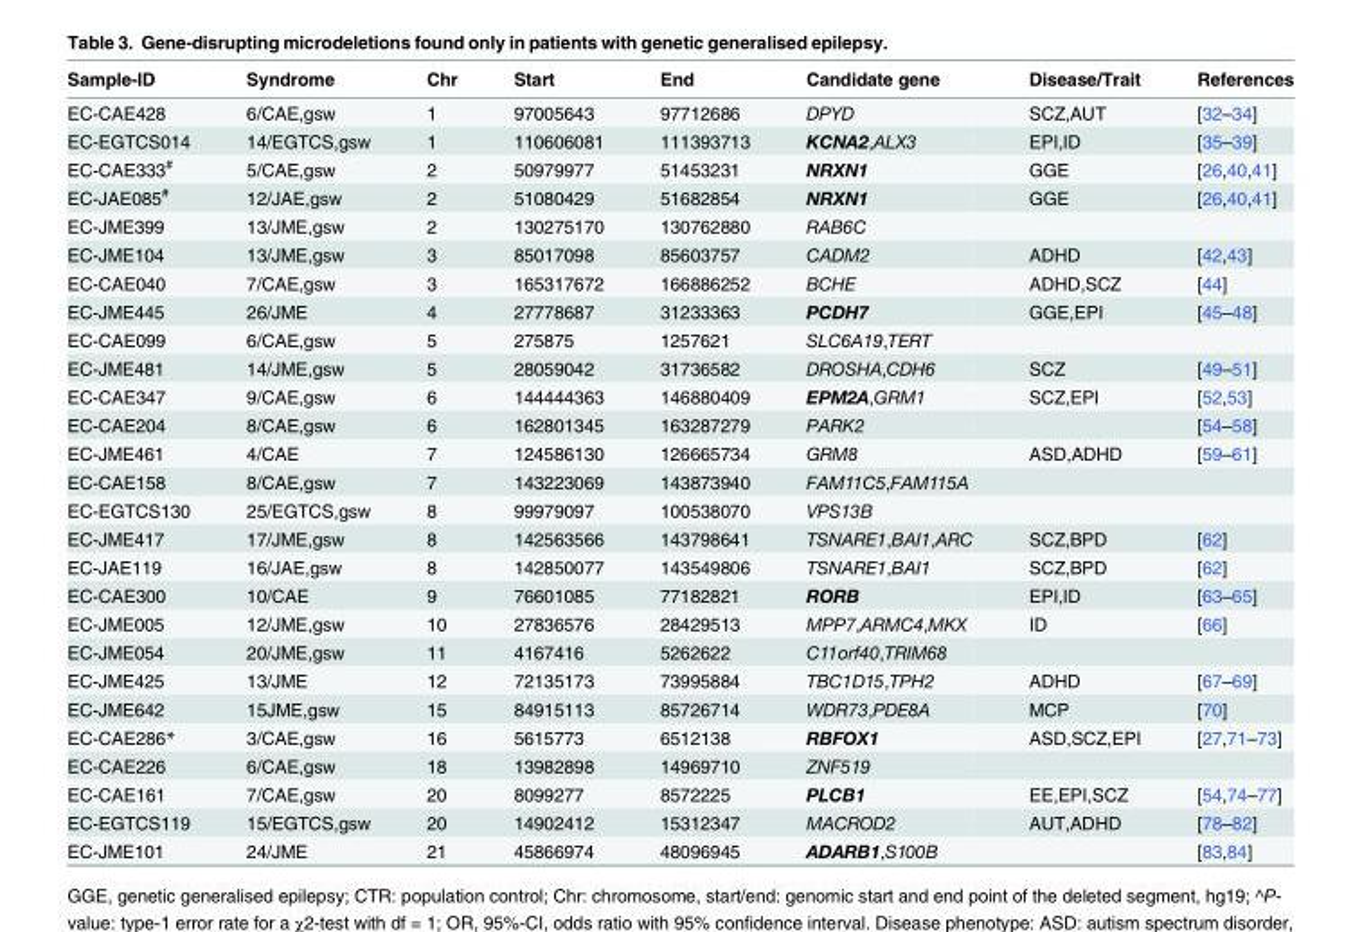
<table><thead><tr><td>Sample-ID</td><td>Syndrome</td><td>Chr</td><td>Start</td><td>End</td><td>Candidate gene</td><td>Disease/Trait</td><td>References</td></tr></thead><tbody><tr><td>EC-CAE428</td><td>6/CAE,gsw</td><td>1</td><td>97005643</td><td>97712686</td><td>DPYD</td><td>SCZ,AUT</td><td>[32–34]</td></tr><tr><td>EC-EGTCS014</td><td>14/EGTCS,gsw</td><td>1</td><td>110606081</td><td>111393713</td><td>KCNA2,ALX3</td><td>EPI,ID</td><td>[35–39]</td></tr><tr><td>EC-CAE333<sup>#</sup></td><td>5/CAE,gsw</td><td>2</td><td>50979977</td><td>51453231</td><td>NRXN1</td><td>GGE</td><td>[26,40,41]</td></tr><tr><td>EC-JAE085<sup>#</sup></td><td>12/JAE,gsw</td><td>2</td><td>51080429</td><td>51682854</td><td>NRXN1</td><td>GGE</td><td>[26,40,41]</td></tr><tr><td>EC-JME399</td><td>13/JME,gsw</td><td>2</td><td>130275170</td><td>130762880</td><td>RAB6C</td><td></td><td></td></tr><tr><td>EC-JME104</td><td>13/JME,gsw</td><td>3</td><td>85017098</td><td>85603757</td><td>CADM2</td><td>ADHD</td><td>[42,43]</td></tr><tr><td>EC-CAE040</td><td>7/CAE,gsw</td><td>3</td><td>165317672</td><td>166886252</td><td>BCHE</td><td>ADHD,SCZ</td><td>[44]</td></tr><tr><td>EC-JME445</td><td>26/JME</td><td>4</td><td>27778687</td><td>31233363</td><td>PCDH7</td><td>GGE,EPI</td><td>[45–48]</td></tr><tr><td>EC-CAE099</td><td>6/CAE,gsw</td><td>5</td><td>275875</td><td>1257621</td><td>SLC6A19,TERT</td><td></td><td></td></tr><tr><td>EC-JME481</td><td>14/JME,gsw</td><td>5</td><td>28059042</td><td>31736582</td><td>DROSHA,CDH6</td><td>SCZ</td><td>[49–51]</td></tr><tr><td>EC-CAE347</td><td>9/CAE,gsw</td><td>6</td><td>144444363</td><td>146880409</td><td>EPM2A,GRM1</td><td>SCZ,EPI</td><td>[52,53]</td></tr><tr><td>EC-CAE204</td><td>8/CAE,gsw</td><td>6</td><td>162801345</td><td>163287279</td><td>PARK2</td><td></td><td>[54–58]</td></tr><tr><td>EC-JME461</td><td>4/CAE</td><td>7</td><td>124586130</td><td>126665734</td><td>GRM8</td><td>ASD,ADHD</td><td>[59–61]</td></tr><tr><td>EC-CAE158</td><td>8/CAE,gsw</td><td>7</td><td>143223069</td><td>143873940</td><td>FAM11C5,FAM115A</td><td></td><td></td></tr><tr><td>EC-EGTCS130</td><td>25/EGTCS,gsw</td><td>8</td><td>99979097</td><td>100538070</td><td>VPS13B</td><td></td><td></td></tr><tr><td>EC-JME417</td><td>17/JME,gsw</td><td>8</td><td>142563566</td><td>143798641</td><td>TSNARE1,BAI1,ARC</td><td>SCZ,BPD</td><td>[62]</td></tr><tr><td>EC-JAE119</td><td>16/JAE,gsw</td><td>8</td><td>142850077</td><td>143549806</td><td>TSNARE1,BAI1</td><td>SCZ,BPD</td><td>[62]</td></tr><tr><td>EC-CAE300</td><td>10/CAE</td><td>9</td><td>76601085</td><td>77182821</td><td>RORB</td><td>EPI,ID</td><td>[63–65]</td></tr><tr><td>EC-JME005</td><td>12/JME,gsw</td><td>10</td><td>27836576</td><td>28429513</td><td>MPP7,ARMC4,MKX</td><td>ID</td><td>[66]</td></tr><tr><td>EC-JME054</td><td>20/JME,gsw</td><td>11</td><td>4167416</td><td>5262622</td><td>C11orf40,TRIM68</td><td></td><td></td></tr><tr><td>EC-JME425</td><td>13/JME</td><td>12</td><td>72135173</td><td>73995884</td><td>TBC1D15,TPH2</td><td>ADHD</td><td>[67–69]</td></tr><tr><td>EC-JME642</td><td>15JME,gsw</td><td>15</td><td>84915113</td><td>85726714</td><td>WDR73,PDE8A</td><td>MCP</td><td>[70]</td></tr><tr><td>EC-CAE286*</td><td>3/CAE,gsw</td><td>16</td><td>5615773</td><td>6512138</td><td>RBFOX1</td><td>ASD,SCZ,EPI</td><td>[27,71–73]</td></tr><tr><td>EC-CAE226</td><td>6/CAE,gsw</td><td>18</td><td>13982898</td><td>14969710</td><td>ZNF519</td><td></td><td></td></tr><tr><td>EC-CAE161</td><td>7/CAE,gsw</td><td>20</td><td>8099277</td><td>8572225</td><td>PLCB1</td><td>EE,EPI,SCZ</td><td>[54,74–77]</td></tr><tr><td>EC-EGTCS119</td><td>15/EGTCS,gsw</td><td>20</td><td>14902412</td><td>15312347</td><td>MACROD2</td><td>AUT,ADHD</td><td>[78–82]</td></tr><tr><td>EC-JME101</td><td>24/JME</td><td>21</td><td>45866974</td><td>48096945</td><td>ADARB1,S100B</td><td></td><td>[83,84]</td></tr></tbody></table>